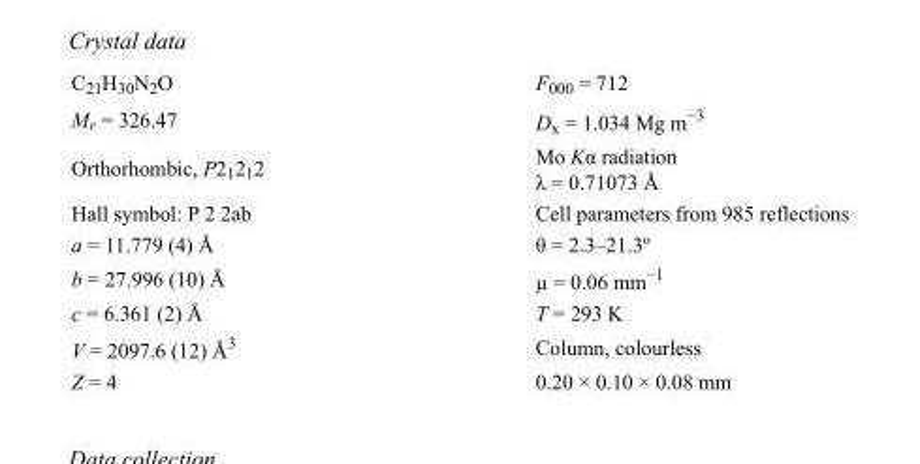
<table><tbody><tr><td>C<sub>21</sub>H<sub>30</sub>N<sub>2</sub>O</td><td>F000 = 712</td></tr><tr><td>M<sub>r</sub> = 326.47</td><td>D<sub>x</sub> = 1.034 Mg m<sup>−3</sup></td></tr><tr><td>Orthorhombic, P2<sub>1</sub>2<sub>1</sub>2</td><td>Mo Kα radiation λ = 0.71073 Å</td></tr><tr><td>Hall symbol: P 2 2ab</td><td>Cell parameters from 985 reflections</td></tr><tr><td>a = 11.779 (4) Å</td><td>θ = 2.3–21.3º</td></tr><tr><td>b = 27.996 (10) Å</td><td>µ = 0.06 mm<sup>−1</sup></td></tr><tr><td>c = 6.361 (2) Å</td><td>T = 293 K</td></tr><tr><td>V = 2097.6 (12) Å<sup>3</sup></td><td>Column, colourless</td></tr><tr><td>Z = 4</td><td>0.20 × 0.10 × 0.08 mm</td></tr></tbody></table>